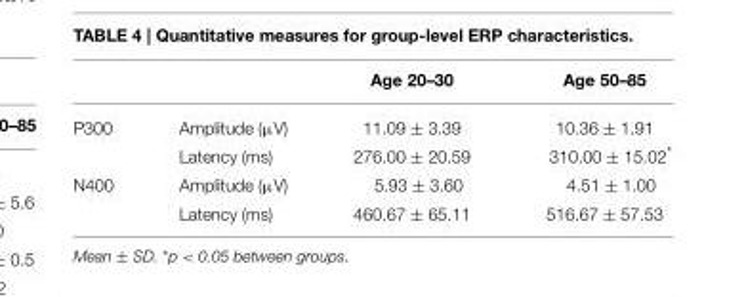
<table><thead><tr><td></td><td></td><td>Age 20–30</td><td>Age 50–85</td></tr></thead><tbody><tr><td rowspan="2">P300</td><td>Amplitude (µV)</td><td>11.09 ± 3.39</td><td>10.36 ± 1.91</td></tr><tr><td>Latency (ms)</td><td>276.00 ± 20.59</td><td>310.00 ± 15.02*</td></tr><tr><td rowspan="2">N400</td><td>Amplitude (µV)</td><td>5.93 ± 3.60</td><td>4.51 ± 1.00</td></tr><tr><td>Latency (ms)</td><td>460.67 ± 65.11</td><td>516.67 ± 57.53</td></tr></tbody></table>